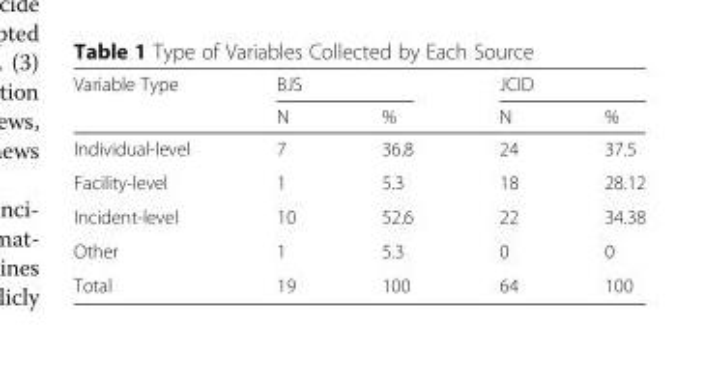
<table><thead><tr><td rowspan="2">Variable Type</td><td colspan="2">BJS</td><td colspan="2">JCID</td></tr><tr><td>N</td><td>%</td><td>N</td><td>%</td></tr></thead><tbody><tr><td>Individual-level</td><td>7</td><td>36.8</td><td>24</td><td>37.5</td></tr><tr><td>Facility-level</td><td>1</td><td>5.3</td><td>18</td><td>28.12</td></tr><tr><td>Incident-level</td><td>10</td><td>52.6</td><td>22</td><td>34.38</td></tr><tr><td>Other</td><td>1</td><td>5.3</td><td>0</td><td>0</td></tr><tr><td>Total</td><td>19</td><td>100</td><td>64</td><td>100</td></tr></tbody></table>